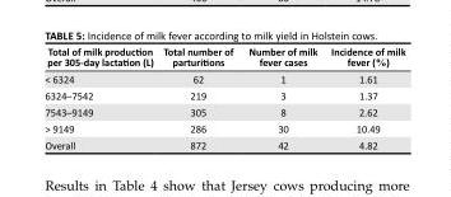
<table><thead><tr><td>Total of milk production per 305-day lactation (L)</td><td>Total number of parturitions</td><td>Number of milk fever cases</td><td>Incidence of milk fever (%)</td></tr></thead><tbody><tr><td>&lt; 6324</td><td>62</td><td>1</td><td>1.61</td></tr><tr><td>6324–7542</td><td>219</td><td>3</td><td>1.37</td></tr><tr><td>7543–9149</td><td>305</td><td>8</td><td>2.62</td></tr><tr><td>&gt; 9149</td><td>286</td><td>30</td><td>10.49</td></tr><tr><td>Overall</td><td>872</td><td>42</td><td>4.82</td></tr></tbody></table>